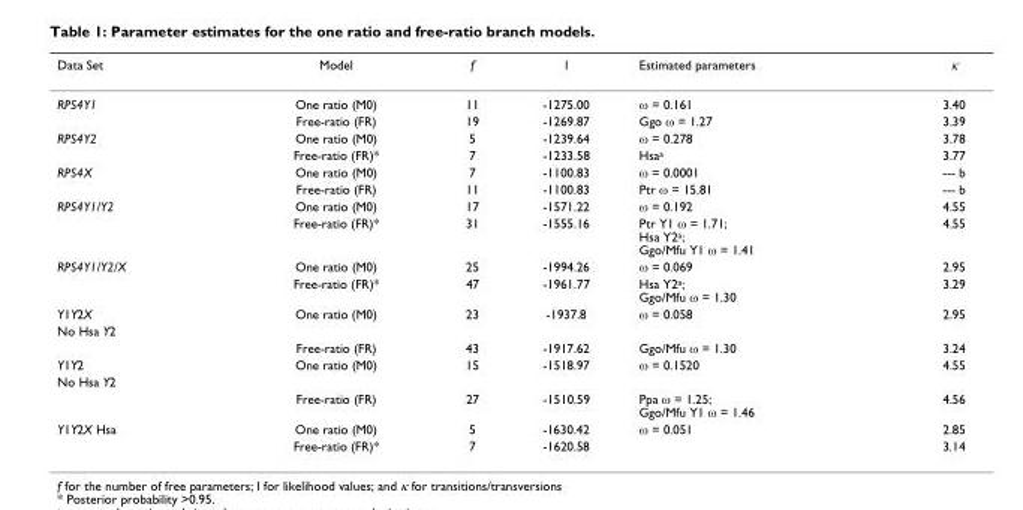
<table><thead><tr><td>Data Set</td><td>Model</td><td>f</td><td>l</td><td>Estimated parameters</td><td>κ</td></tr></thead><tbody><tr><td rowspan="2">RPS4Y1</td><td>One ratio (M0)</td><td>11</td><td>-1275.00</td><td>ω = 0.161</td><td>3.40</td></tr><tr><td>Free-ratio (FR)</td><td>19</td><td>-1269.87</td><td>Ggo ω = 1.27</td><td>3.39</td></tr><tr><td rowspan="2">RPS4Y2</td><td>One ratio (M0)</td><td>5</td><td>-1239.64</td><td>ω = 0.278</td><td>3.78</td></tr><tr><td>Free-ratio (FR)*</td><td>7</td><td>-1233.58</td><td>Hsa<sup>a</sup></td><td>3.77</td></tr><tr><td rowspan="2">RPS4X</td><td>One ratio (M0)</td><td>7</td><td>-1100.83</td><td>ω = 0.0001</td><td>--- b</td></tr><tr><td>Free-ratio (FR)</td><td>11</td><td>-1100.83</td><td>Ptr ω = 15.81</td><td>--- b</td></tr><tr><td rowspan="2">RPS4Y1/Y2</td><td>One ratio (M0)</td><td>17</td><td>-1571.22</td><td>ω = 0.192</td><td>4.55</td></tr><tr><td>Free-ratio (FR)*</td><td>31</td><td>-1555.16</td><td>Ptr Y1 ω = 1.71; Hsa Y2<sup>a</sup>; Ggo/Mfu Y1 ω = 1.41</td><td>4.55</td></tr><tr><td rowspan="2">RPS4Y1/Y2/X</td><td>One ratio (M0)</td><td>25</td><td>-1994.26</td><td>ω = 0.069</td><td>2.95</td></tr><tr><td>Free-ratio (FR)*</td><td>47</td><td>-1961.77</td><td>Hsa Y2<sup>a</sup>; Ggo/Mfu ω = 1.30</td><td>3.29</td></tr><tr><td>Y1Y2X</td><td>One ratio (M0)</td><td>23</td><td>-1937.8</td><td>ω = 0.058</td><td>2.95</td></tr><tr><td colspan="6">No Hsa Y2</td></tr><tr><td></td><td>Free-ratio (FR)</td><td>43</td><td>-1917.62</td><td>Ggo/Mfu ω = 1.30</td><td>3.24</td></tr><tr><td>Y1Y2</td><td>One ratio (M0)</td><td>15</td><td>-1518.97</td><td>ω = 0.1520</td><td>4.55</td></tr><tr><td colspan="6">No Hsa Y2</td></tr><tr><td></td><td>Free-ratio (FR)</td><td>27</td><td>-1510.59</td><td>Ppa ω = 1.25; Ggo/Mfu Y1 ω = 1.46</td><td>4.56</td></tr><tr><td rowspan="2">Y1Y2X Hsa</td><td>One ratio (M0)</td><td>5</td><td>-1630.42</td><td>ω = 0.051</td><td>2.85</td></tr><tr><td>Free-ratio (FR)*</td><td>7</td><td>-1620.58</td><td></td><td>3.14</td></tr></tbody></table>